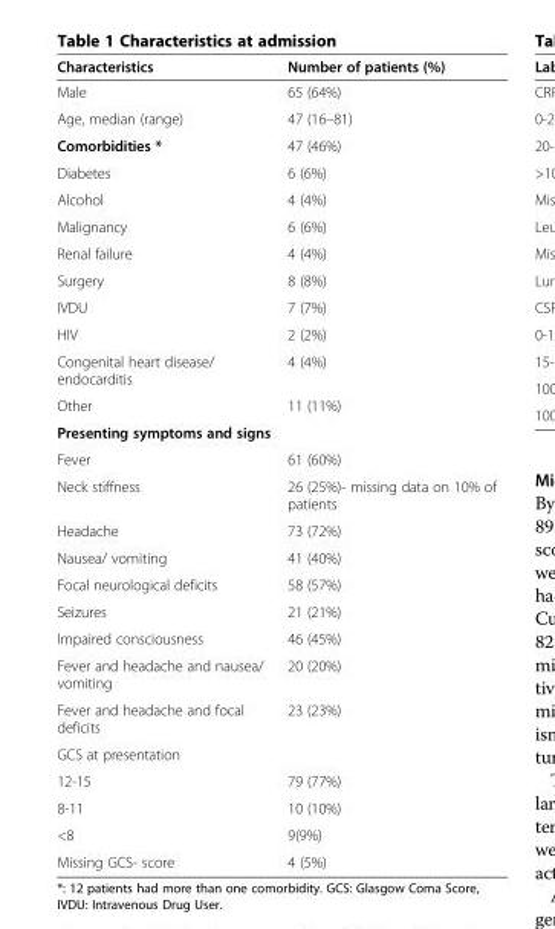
<table><thead><tr><td>Characteristics</td><td>Number of patients (%)</td></tr></thead><tbody><tr><td>Male</td><td>65 (64%)</td></tr><tr><td>Age, median (range)</td><td>47 (16–81)</td></tr><tr><td>Comorbidities *</td><td>47 (46%)</td></tr><tr><td>Diabetes</td><td>6 (6%)</td></tr><tr><td>Alcohol</td><td>4 (4%)</td></tr><tr><td>Malignancy</td><td>6 (6%)</td></tr><tr><td>Renal failure</td><td>4 (4%)</td></tr><tr><td>Surgery</td><td>8 (8%)</td></tr><tr><td>IVDU</td><td>7 (7%)</td></tr><tr><td>HIV</td><td>2 (2%)</td></tr><tr><td>Congenital heart disease/ endocarditis</td><td>4 (4%)</td></tr><tr><td>Other</td><td>11 (11%)</td></tr><tr><td colspan="2">Presenting symptoms and signs</td></tr><tr><td>Fever</td><td>61 (60%)</td></tr><tr><td>Neck stiffness</td><td>26 (25%)- missing data on 10% of patients</td></tr><tr><td>Headache</td><td>73 (72%)</td></tr><tr><td>Nausea/ vomiting</td><td>41 (40%)</td></tr><tr><td>Focal neurological deficits</td><td>58 (57%)</td></tr><tr><td>Seizures</td><td>21 (21%)</td></tr><tr><td>Impaired consciousness</td><td>46 (45%)</td></tr><tr><td>Fever and headache and nausea/ vomiting</td><td>20 (20%)</td></tr><tr><td>Fever and headache and focal deficits</td><td>23 (23%)</td></tr><tr><td colspan="2">GCS at presentation</td></tr><tr><td>12-15</td><td>79 (77%)</td></tr><tr><td>8-11</td><td>10 (10%)</td></tr><tr><td>&lt;8</td><td>9(9%)</td></tr><tr><td>Missing GCS- score</td><td>4 (5%)</td></tr></tbody></table>